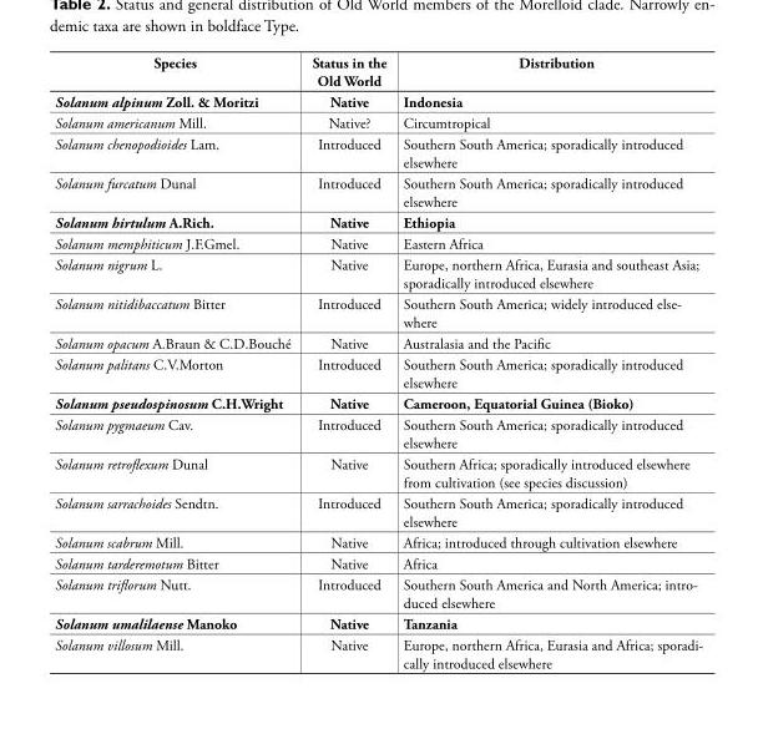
<table><tbody><tr><td>Species</td><td>Status in the Old World</td><td>Distribution</td></tr><tr><td>Solanum alpinum Zoll. &amp; Moritzi</td><td>Native</td><td>Indonesia</td></tr><tr><td>Solanum americanum Mill.</td><td>Native?</td><td>Circumtropical</td></tr><tr><td>Solanum chenopodioides Lam.</td><td>Introduced</td><td>Southern South America; sporadically introduced elsewhere</td></tr><tr><td>Solanum furcatum Dunal</td><td>Introduced</td><td>Southern South America; sporadically introduced elsewhere</td></tr><tr><td>Solanum hirtulum A.Rich.</td><td>Native</td><td>Ethiopia</td></tr><tr><td>Solanum memphiticum J.F.Gmel.</td><td>Native</td><td>Eastern Africa</td></tr><tr><td>Solanum nigrum L.</td><td>Native</td><td>Europe, northern Africa, Eurasia and southeast Asia; sporadically introduced elsewhere</td></tr><tr><td>Solanum nitidibaccatum Bitter</td><td>Introduced</td><td>Southern South America; widely introduced else- where</td></tr><tr><td>Solanum opacum A.Braun &amp; C.D.Bouché</td><td>Native</td><td>Australasia and the Pacific</td></tr><tr><td>Solanum palitans C.V.Morton</td><td>Introduced</td><td>Southern South America; sporadically introduced elsewhere</td></tr><tr><td>Solanum pseudospinosum C.H.Wright</td><td>Native</td><td>Cameroon, Equatorial Guinea (Bioko)</td></tr><tr><td>Solanum pygmaeum Cav.</td><td>Introduced</td><td>Southern South America; sporadically introduced elsewhere</td></tr><tr><td>Solanum retroflexum Dunal</td><td>Native</td><td>Southern Africa; sporadically introduced elsewhere from cultivation (see species discussion)</td></tr><tr><td>Solanum sarrachoides Sendtn.</td><td>Introduced</td><td>Southern South America; sporadically introduced elsewhere</td></tr><tr><td>Solanum scabrum Mill.</td><td>Native</td><td>Africa; introduced through cultivation elsewhere</td></tr><tr><td>Solanum tarderemotum Bitter</td><td>Native</td><td>Africa</td></tr><tr><td>Solanum triflorum Nutt.</td><td>Introduced</td><td>Southern South America and North America; intro- duced elsewhere</td></tr><tr><td>Solanum umalilaense Manoko</td><td>Native</td><td>Tanzania</td></tr><tr><td>Solanum villosum Mill.</td><td>Native</td><td>Europe, northern Africa, Eurasia and Africa; sporadi- cally introduced elsewhere</td></tr></tbody></table>